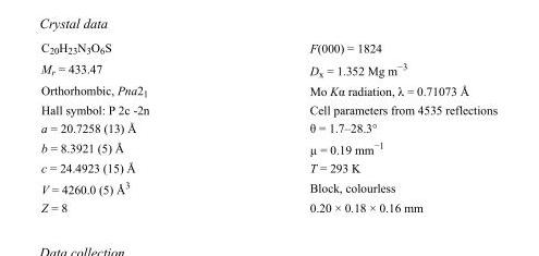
<table><tbody><tr><td>C<sub>20</sub>H<sub>23</sub>N<sub>3</sub>O<sub>6</sub>S</td><td>F(000) = 1824</td></tr><tr><td>M<sub>r</sub> = 433.47</td><td>D<sub>x</sub> = 1.352 Mg m<sup>−3</sup></td></tr><tr><td>Orthorhombic, Pna2<sub>1</sub></td><td>Mo Kα radiation, λ = 0.71073 Å</td></tr><tr><td>Hall symbol: P 2c -2n</td><td>Cell parameters from 4535 reflections</td></tr><tr><td>a = 20.7258 (13) Å</td><td>θ = 1.7–28.3°</td></tr><tr><td>b = 8.3921 (5) Å</td><td>µ = 0.19 mm<sup>−1</sup></td></tr><tr><td>c = 24.4923 (15) Å</td><td>T = 293 K</td></tr><tr><td>V = 4260.0 (5) Å<sup>3</sup></td><td>Block, colourless</td></tr><tr><td>Z = 8</td><td>0.20 × 0.18 × 0.16 mm</td></tr></tbody></table>